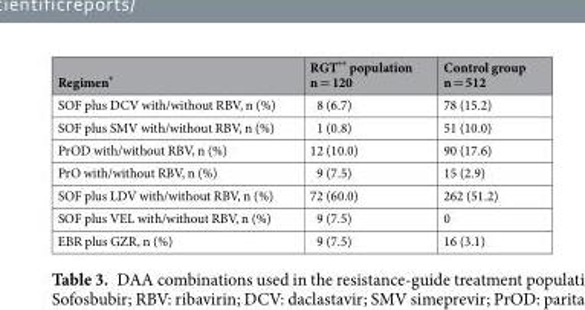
<table><thead><tr><td>Regimen*</td><td>RGT** population n = 120</td><td>Control group n = 512</td></tr></thead><tbody><tr><td>SOF plus DCV with/without RBV, n (%)</td><td>8 (6.7)</td><td>78 (15.2)</td></tr><tr><td>SOF plus SMV with/without RBV, n (%)</td><td>1 (0.8)</td><td>51 (10.0)</td></tr><tr><td>PrOD with/without RBV, n (%)</td><td>12 (10.0)</td><td>90 (17.6)</td></tr><tr><td>PrO with/without RBV, n (%)</td><td>9 (7.5)</td><td>15 (2.9)</td></tr><tr><td>SOF plus LDV with/without RBV, n (%)</td><td>72 (60.0)</td><td>262 (51.2)</td></tr><tr><td>SOF plus VEL with/without RBV, n (%)</td><td>9 (7.5)</td><td>0</td></tr><tr><td>EBR plus GZR, n (%)</td><td>9 (7.5)</td><td>16 (3.1)</td></tr></tbody></table>